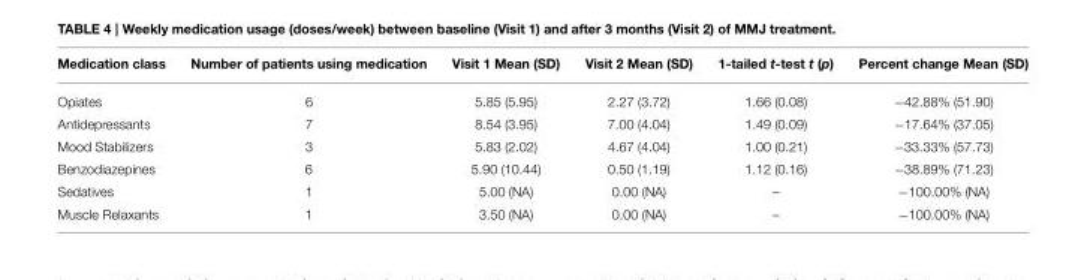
<table><thead><tr><td>Medication class</td><td>Number of patients using medication</td><td>Visit 1 Mean (SD)</td><td>Visit 2 Mean (SD)</td><td>1-tailed t-test t (p)</td><td>Percent change Mean (SD)</td></tr></thead><tbody><tr><td>Opiates</td><td>6</td><td>5.85 (5.95)</td><td>2.27 (3.72)</td><td>1.66 (0.08)</td><td>−42.88% (51.90)</td></tr><tr><td>Antidepressants</td><td>7</td><td>8.54 (3.95)</td><td>7.00 (4.04)</td><td>1.49 (0.09)</td><td>−17.64% (37.05)</td></tr><tr><td>Mood Stabilizers</td><td>3</td><td>5.83 (2.02)</td><td>4.67 (4.04)</td><td>1.00 (0.21)</td><td>−33.33% (57.73)</td></tr><tr><td>Benzodiazepines</td><td>6</td><td>5.90 (10.44)</td><td>0.50 (1.19)</td><td>1.12 (0.16)</td><td>−38.89% (71.23)</td></tr><tr><td>Sedatives</td><td>1</td><td>5.00 (NA)</td><td>0.00 (NA)</td><td>–</td><td>−100.00% (NA)</td></tr><tr><td>Muscle Relaxants</td><td>1</td><td>3.50 (NA)</td><td>0.00 (NA)</td><td>–</td><td>−100.00% (NA)</td></tr></tbody></table>